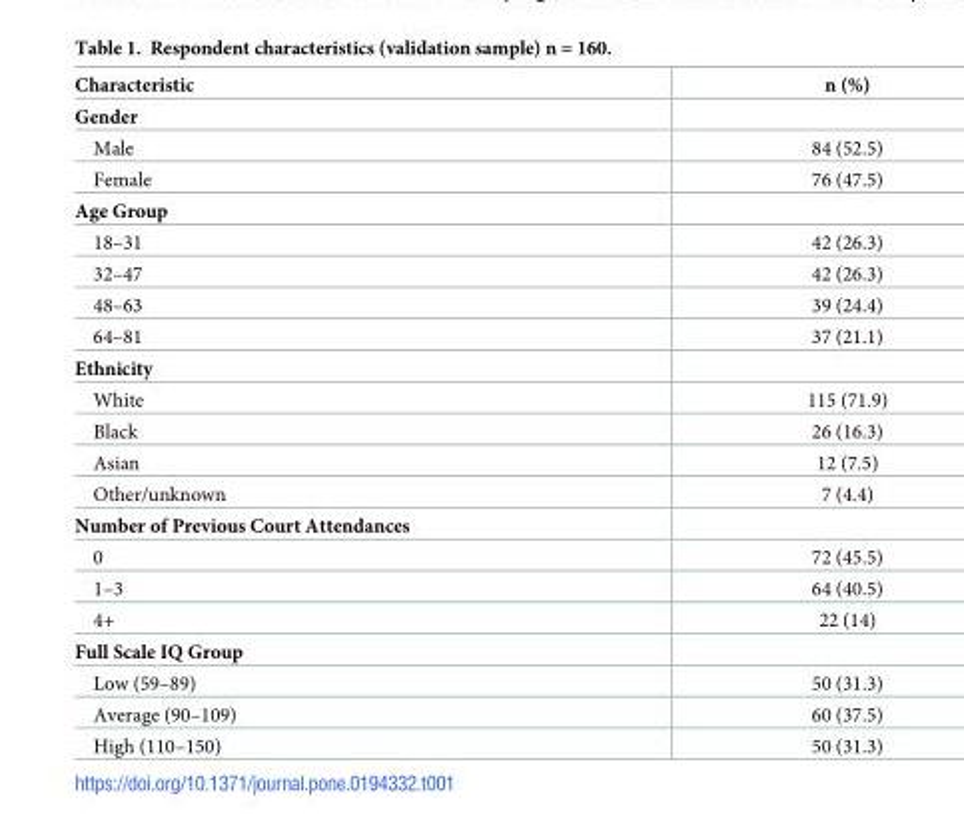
<table><thead><tr><td>Characteristic</td><td>n (%)</td></tr></thead><tbody><tr><td colspan="2">Gender</td></tr><tr><td>Male</td><td>84 (52.5)</td></tr><tr><td>Female</td><td>76 (47.5)</td></tr><tr><td colspan="2">Age Group</td></tr><tr><td>18–31</td><td>42 (26.3)</td></tr><tr><td>32–47</td><td>42 (26.3)</td></tr><tr><td>48–63</td><td>39 (24.4)</td></tr><tr><td>64–81</td><td>37 (21.1)</td></tr><tr><td colspan="2">Ethnicity</td></tr><tr><td>White</td><td>115 (71.9)</td></tr><tr><td>Black</td><td>26 (16.3)</td></tr><tr><td>Asian</td><td>12 (7.5)</td></tr><tr><td>Other/unknown</td><td>7 (4.4)</td></tr><tr><td colspan="2">Number of Previous Court Attendances</td></tr><tr><td>0</td><td>72 (45.5)</td></tr><tr><td>1–3</td><td>64 (40.5)</td></tr><tr><td>4+</td><td>22 (14)</td></tr><tr><td colspan="2">Full Scale IQ Group</td></tr><tr><td>Low (59–89)</td><td>50 (31.3)</td></tr><tr><td>Average (90–109)</td><td>60 (37.5)</td></tr><tr><td>High (110–150)</td><td>50 (31.3)</td></tr></tbody></table>